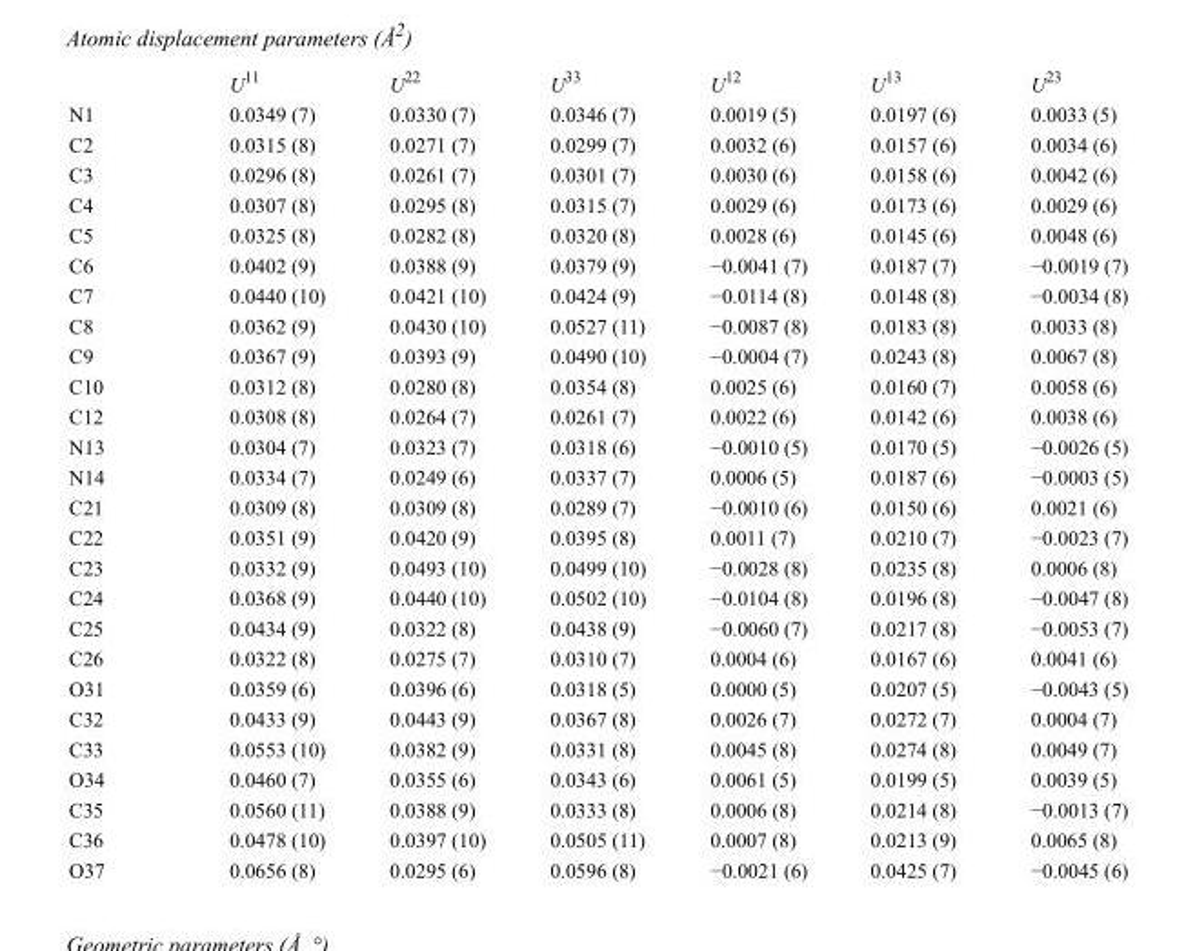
<table><thead><tr><td></td><td>U<sup>11</sup></td><td>U<sup>22</sup></td><td>U<sup>33</sup></td><td>U<sup>12</sup></td><td>U<sup>13</sup></td><td>U<sup>23</sup></td></tr></thead><tbody><tr><td>N1</td><td>0.0349 (7)</td><td>0.0330 (7)</td><td>0.0346 (7)</td><td>0.0019 (5)</td><td>0.0197 (6)</td><td>0.0033 (5)</td></tr><tr><td>C2</td><td>0.0315 (8)</td><td>0.0271 (7)</td><td>0.0299 (7)</td><td>0.0032 (6)</td><td>0.0157 (6)</td><td>0.0034 (6)</td></tr><tr><td>C3</td><td>0.0296 (8)</td><td>0.0261 (7)</td><td>0.0301 (7)</td><td>0.0030 (6)</td><td>0.0158 (6)</td><td>0.0042 (6)</td></tr><tr><td>C4</td><td>0.0307 (8)</td><td>0.0295 (8)</td><td>0.0315 (7)</td><td>0.0029 (6)</td><td>0.0173 (6)</td><td>0.0029 (6)</td></tr><tr><td>C5</td><td>0.0325 (8)</td><td>0.0282 (8)</td><td>0.0320 (8)</td><td>0.0028 (6)</td><td>0.0145 (6)</td><td>0.0048 (6)</td></tr><tr><td>C6</td><td>0.0402 (9)</td><td>0.0388 (9)</td><td>0.0379 (9)</td><td>−0.0041 (7)</td><td>0.0187 (7)</td><td>−0.0019 (7)</td></tr><tr><td>C7</td><td>0.0440 (10)</td><td>0.0421 (10)</td><td>0.0424 (9)</td><td>−0.0114 (8)</td><td>0.0148 (8)</td><td>−0.0034 (8)</td></tr><tr><td>C8</td><td>0.0362 (9)</td><td>0.0430 (10)</td><td>0.0527 (11)</td><td>−0.0087 (8)</td><td>0.0183 (8)</td><td>0.0033 (8)</td></tr><tr><td>C9</td><td>0.0367 (9)</td><td>0.0393 (9)</td><td>0.0490 (10)</td><td>−0.0004 (7)</td><td>0.0243 (8)</td><td>0.0067 (8)</td></tr><tr><td>C10</td><td>0.0312 (8)</td><td>0.0280 (8)</td><td>0.0354 (8)</td><td>0.0025 (6)</td><td>0.0160 (7)</td><td>0.0058 (6)</td></tr><tr><td>C12</td><td>0.0308 (8)</td><td>0.0264 (7)</td><td>0.0261 (7)</td><td>0.0022 (6)</td><td>0.0142 (6)</td><td>0.0038 (6)</td></tr><tr><td>N13</td><td>0.0304 (7)</td><td>0.0323 (7)</td><td>0.0318 (6)</td><td>−0.0010 (5)</td><td>0.0170 (5)</td><td>−0.0026 (5)</td></tr><tr><td>N14</td><td>0.0334 (7)</td><td>0.0249 (6)</td><td>0.0337 (7)</td><td>0.0006 (5)</td><td>0.0187 (6)</td><td>−0.0003 (5)</td></tr><tr><td>C21</td><td>0.0309 (8)</td><td>0.0309 (8)</td><td>0.0289 (7)</td><td>−0.0010 (6)</td><td>0.0150 (6)</td><td>0.0021 (6)</td></tr><tr><td>C22</td><td>0.0351 (9)</td><td>0.0420 (9)</td><td>0.0395 (8)</td><td>0.0011 (7)</td><td>0.0210 (7)</td><td>−0.0023 (7)</td></tr><tr><td>C23</td><td>0.0332 (9)</td><td>0.0493 (10)</td><td>0.0499 (10)</td><td>−0.0028 (8)</td><td>0.0235 (8)</td><td>0.0006 (8)</td></tr><tr><td>C24</td><td>0.0368 (9)</td><td>0.0440 (10)</td><td>0.0502 (10)</td><td>−0.0104 (8)</td><td>0.0196 (8)</td><td>−0.0047 (8)</td></tr><tr><td>C25</td><td>0.0434 (9)</td><td>0.0322 (8)</td><td>0.0438 (9)</td><td>−0.0060 (7)</td><td>0.0217 (8)</td><td>−0.0053 (7)</td></tr><tr><td>C26</td><td>0.0322 (8)</td><td>0.0275 (7)</td><td>0.0310 (7)</td><td>0.0004 (6)</td><td>0.0167 (6)</td><td>0.0041 (6)</td></tr><tr><td>O31</td><td>0.0359 (6)</td><td>0.0396 (6)</td><td>0.0318 (5)</td><td>0.0000 (5)</td><td>0.0207 (5)</td><td>−0.0043 (5)</td></tr><tr><td>C32</td><td>0.0433 (9)</td><td>0.0443 (9)</td><td>0.0367 (8)</td><td>0.0026 (7)</td><td>0.0272 (7)</td><td>0.0004 (7)</td></tr><tr><td>C33</td><td>0.0553 (10)</td><td>0.0382 (9)</td><td>0.0331 (8)</td><td>0.0045 (8)</td><td>0.0274 (8)</td><td>0.0049 (7)</td></tr><tr><td>O34</td><td>0.0460 (7)</td><td>0.0355 (6)</td><td>0.0343 (6)</td><td>0.0061 (5)</td><td>0.0199 (5)</td><td>0.0039 (5)</td></tr><tr><td>C35</td><td>0.0560 (11)</td><td>0.0388 (9)</td><td>0.0333 (8)</td><td>0.0006 (8)</td><td>0.0214 (8)</td><td>−0.0013 (7)</td></tr><tr><td>C36</td><td>0.0478 (10)</td><td>0.0397 (10)</td><td>0.0505 (11)</td><td>0.0007 (8)</td><td>0.0213 (9)</td><td>0.0065 (8)</td></tr><tr><td>O37</td><td>0.0656 (8)</td><td>0.0295 (6)</td><td>0.0596 (8)</td><td>−0.0021 (6)</td><td>0.0425 (7)</td><td>−0.0045 (6)</td></tr></tbody></table>